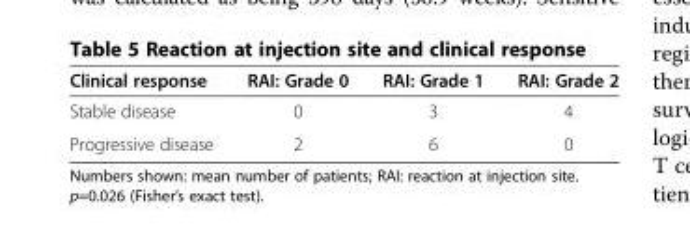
<table><thead><tr><td>Clinical response</td><td>RAI: Grade 0</td><td>RAI: Grade 1</td><td>RAI: Grade 2</td></tr></thead><tbody><tr><td>Stable disease</td><td>0</td><td>3</td><td>4</td></tr><tr><td>Progressive disease</td><td>2</td><td>6</td><td>0</td></tr></tbody></table>